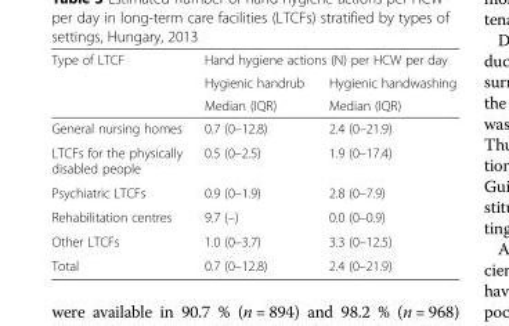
<table><thead><tr><td rowspan="3">Type of LTCF</td><td colspan="2">Hand hygiene actions (N) per HCW per day</td></tr><tr><td rowspan="2">Hygienic handrub Median (IQR)</td><td rowspan="2">Hygienic handwashing Median (IQR)</td></tr><tr></tr></thead><tbody><tr><td>General nursing homes</td><td>0.7 (0–12.8)</td><td>2.4 (0–21.9)</td></tr><tr><td>LTCFs for the physically disabled people</td><td>0.5 (0–2.5)</td><td>1.9 (0–17.4)</td></tr><tr><td>Psychiatric LTCFs</td><td>0.9 (0–1.9)</td><td>2.8 (0–7.9)</td></tr><tr><td>Rehabilitation centres</td><td>9.7 (–)</td><td>0.0 (0–0.9)</td></tr><tr><td>Other LTCFs</td><td>1.0 (0–3.7)</td><td>3.3 (0–12.5)</td></tr><tr><td>Total</td><td>0.7 (0–12.8)</td><td>2.4 (0–21.9)</td></tr></tbody></table>